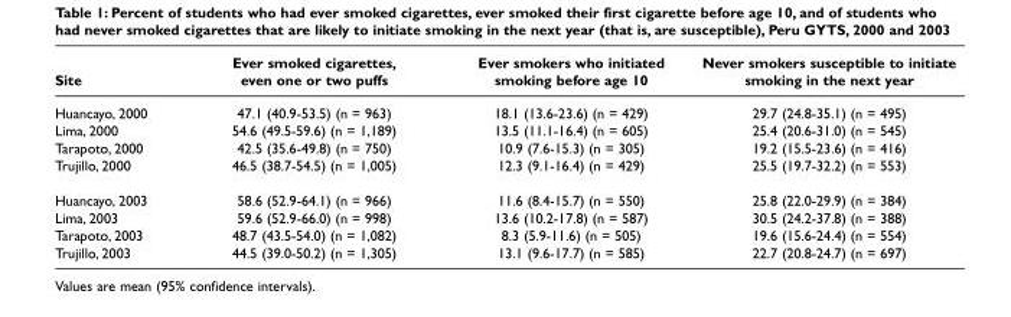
<table><thead><tr><td>Site</td><td>Ever smoked cigarettes, even one or two puffs</td><td>Ever smokers who initiated smoking before age 10</td><td>Never smokers susceptible to initiate smoking in the next year</td></tr></thead><tbody><tr><td>Huancayo, 2000</td><td>47.1 (40.9-53.5) (n = 963)</td><td>18.1 (13.6-23.6) (n = 429)</td><td>29.7 (24.8-35.1) (n = 495)</td></tr><tr><td>Lima, 2000</td><td>54.6 (49.5-59.6) (n = 1,189)</td><td>13.5 (11.1-16.4) (n = 605)</td><td>25.4 (20.6-31.0) (n = 545)</td></tr><tr><td>Tarapoto, 2000</td><td>42.5 (35.6-49.8) (n = 750)</td><td>10.9 (7.6-15.3) (n = 305)</td><td>19.2 (15.5-23.6) (n = 416)</td></tr><tr><td>Trujillo, 2000</td><td>46.5 (38.7-54.5) (n = 1,005)</td><td>12.3 (9.1-16.4) (n = 429)</td><td>25.5 (19.7-32.2) (n = 553)</td></tr><tr><td>Huancayo, 2003</td><td>58.6 (52.9-64.1) (n = 966)</td><td>11.6 (8.4-15.7) (n = 550)</td><td>25.8 (22.0-29.9) (n = 384)</td></tr><tr><td>Lima, 2003</td><td>59.6 (52.9-66.0) (n = 998)</td><td>13.6 (10.2-17.8) (n = 587)</td><td>30.5 (24.2-37.8) (n = 388)</td></tr><tr><td>Tarapoto, 2003</td><td>48.7 (43.5-54.0) (n = 1,082)</td><td>8.3 (5.9-11.6) (n = 505)</td><td>19.6 (15.6-24.4) (n = 554)</td></tr><tr><td>Trujillo, 2003</td><td>44.5 (39.0-50.2) (n = 1,305)</td><td>13.1 (9.6-17.7) (n = 585)</td><td>22.7 (20.8-24.7) (n = 697)</td></tr></tbody></table>